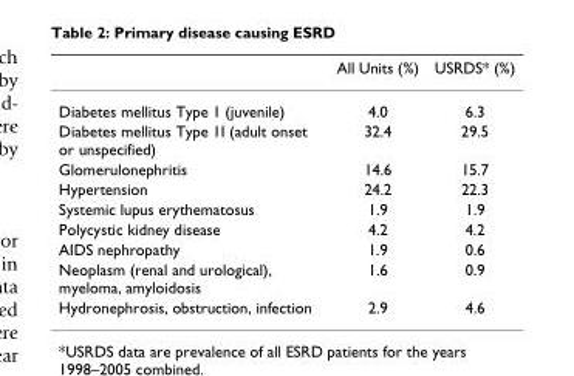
<table><thead><tr><td></td><td>All Units (%)</td><td>USRDS* (%)</td></tr></thead><tbody><tr><td>Diabetes mellitus Type 1 (juvenile)</td><td>4.0</td><td>6.3</td></tr><tr><td>Diabetes mellitus Type 1I (adult onset or unspecified)</td><td>32.4</td><td>29.5</td></tr><tr><td>Glomerulonephritis</td><td>14.6</td><td>15.7</td></tr><tr><td>Hypertension</td><td>24.2</td><td>22.3</td></tr><tr><td>Systemic lupus erythematosus</td><td>1.9</td><td>1.9</td></tr><tr><td>Polycystic kidney disease</td><td>4.2</td><td>4.2</td></tr><tr><td>AIDS nephropathy</td><td>1.9</td><td>0.6</td></tr><tr><td>Neoplasm (renal and urological), myeloma, amyloidosis</td><td>1.6</td><td>0.9</td></tr><tr><td>Hydronephrosis, obstruction, infection</td><td>2.9</td><td>4.6</td></tr></tbody></table>